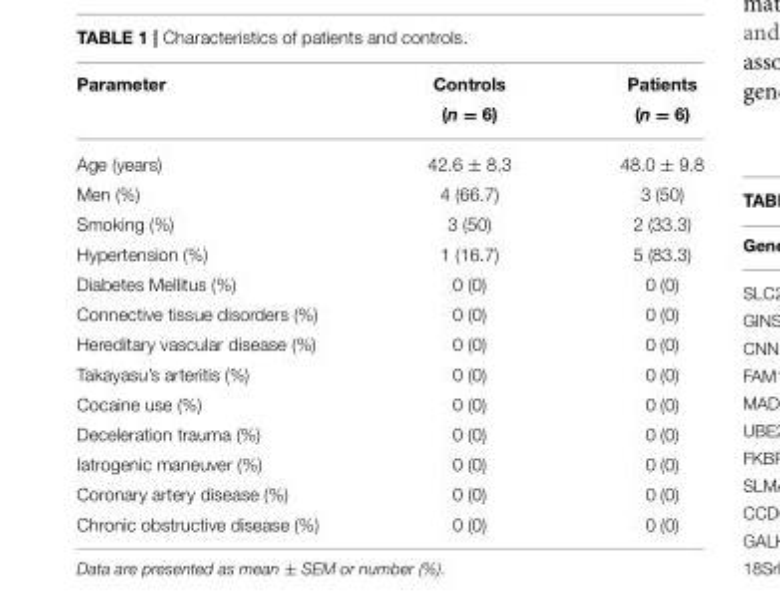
<table><thead><tr><td rowspan="2">Parameter</td><td rowspan="2">Controls (n = 6)</td><td rowspan="2">Patients (n = 6)</td></tr><tr></tr></thead><tbody><tr><td>Age (years)</td><td>42.6 ± 8.3</td><td>48.0 ± 9.8</td></tr><tr><td>Men (%)</td><td>4 (66.7)</td><td>3 (50)</td></tr><tr><td>Smoking (%)</td><td>3 (50)</td><td>2 (33.3)</td></tr><tr><td>Hypertension (%)</td><td>1 (16.7)</td><td>5 (83.3)</td></tr><tr><td>Diabetes Mellitus (%)</td><td>0 (0)</td><td>0 (0)</td></tr><tr><td>Connective tissue disorders (%)</td><td>0 (0)</td><td>0 (0)</td></tr><tr><td>Hereditary vascular disease (%)</td><td>0 (0)</td><td>0 (0)</td></tr><tr><td>Takayasu’s arteritis (%)</td><td>0 (0)</td><td>0 (0)</td></tr><tr><td>Cocaine use (%)</td><td>0 (0)</td><td>0 (0)</td></tr><tr><td>Deceleration trauma (%)</td><td>0 (0)</td><td>0 (0)</td></tr><tr><td>Iatrogenic maneuver (%)</td><td>0 (0)</td><td>0 (0)</td></tr><tr><td>Coronary artery disease (%)</td><td>0 (0)</td><td>0 (0)</td></tr><tr><td>Chronic obstructive disease (%)</td><td>0 (0)</td><td>0 (0)</td></tr></tbody></table>